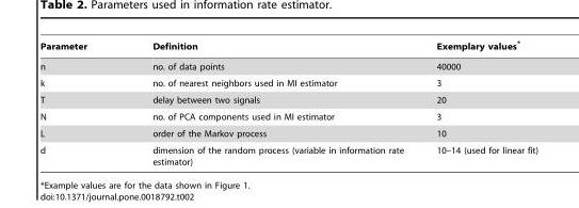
<table><thead><tr><td>Parameter</td><td>Definition</td><td>Exemplary values*</td></tr></thead><tbody><tr><td>n</td><td>no. of data points</td><td>40000</td></tr><tr><td>k</td><td>no. of nearest neighbors used in MI estimator</td><td>3</td></tr><tr><td>T</td><td>delay between two signals</td><td>20</td></tr><tr><td>N</td><td>no. of PCA components used in MI estimator</td><td>3</td></tr><tr><td>L</td><td>order of the Markov process</td><td>10</td></tr><tr><td>d</td><td>dimension of the random process (variable in information rate estimator)</td><td>10–14 (used for linear fit)</td></tr></tbody></table>